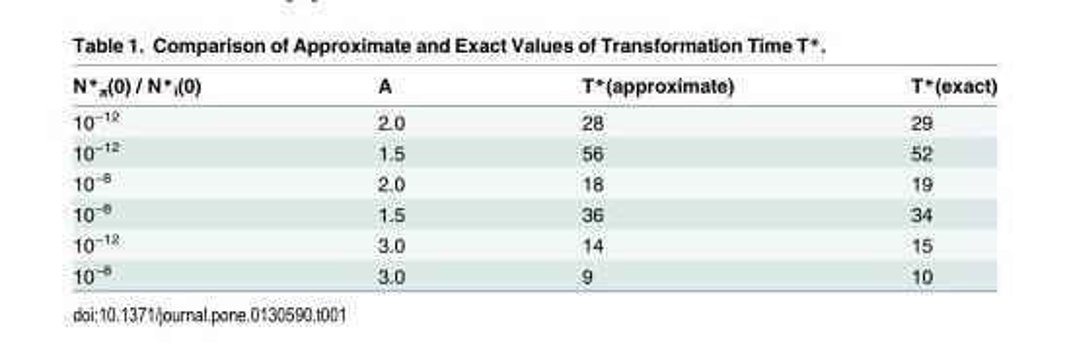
<table><thead><tr><td>N*<sub>a</sub>(0) / N*<sub>i</sub>(0)</td><td>A</td><td>T*(approximate)</td><td>T*(exact)</td></tr></thead><tbody><tr><td>10<sup>−12</sup></td><td>2.0</td><td>28</td><td>29</td></tr><tr><td>10<sup>−12</sup></td><td>1.5</td><td>56</td><td>52</td></tr><tr><td>10<sup>−8</sup></td><td>2.0</td><td>18</td><td>19</td></tr><tr><td>10<sup>−8</sup></td><td>1.5</td><td>36</td><td>34</td></tr><tr><td>10<sup>−12</sup></td><td>3.0</td><td>14</td><td>15</td></tr><tr><td>10<sup>−8</sup></td><td>3.0</td><td>9</td><td>10</td></tr></tbody></table>